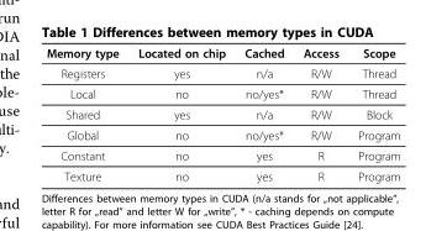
<table><thead><tr><td>Memory type</td><td>Located on chip</td><td>Cached</td><td>Access</td><td>Scope</td></tr></thead><tbody><tr><td>Registers</td><td>yes</td><td>n/a</td><td>R/W</td><td>Thread</td></tr><tr><td>Local</td><td>no</td><td>no/yes*</td><td>R/W</td><td>Thread</td></tr><tr><td>Shared</td><td>yes</td><td>n/a</td><td>R/W</td><td>Block</td></tr><tr><td>Global</td><td>no</td><td>no/yes*</td><td>R/W</td><td>Program</td></tr><tr><td>Constant</td><td>no</td><td>yes</td><td>R</td><td>Program</td></tr><tr><td>Texture</td><td>no</td><td>yes</td><td>R</td><td>Program</td></tr></tbody></table>